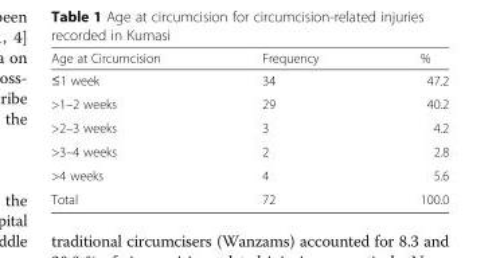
<table><thead><tr><td>Age at Circumcision</td><td>Frequency</td><td>%</td></tr></thead><tbody><tr><td>≤1 week</td><td>34</td><td>47.2</td></tr><tr><td>&gt;1–2 weeks</td><td>29</td><td>40.2</td></tr><tr><td>&gt;2–3 weeks</td><td>3</td><td>4.2</td></tr><tr><td>&gt;3–4 weeks</td><td>2</td><td>2.8</td></tr><tr><td>&gt;4 weeks</td><td>4</td><td>5.6</td></tr><tr><td>Total</td><td>72</td><td>100.0</td></tr></tbody></table>